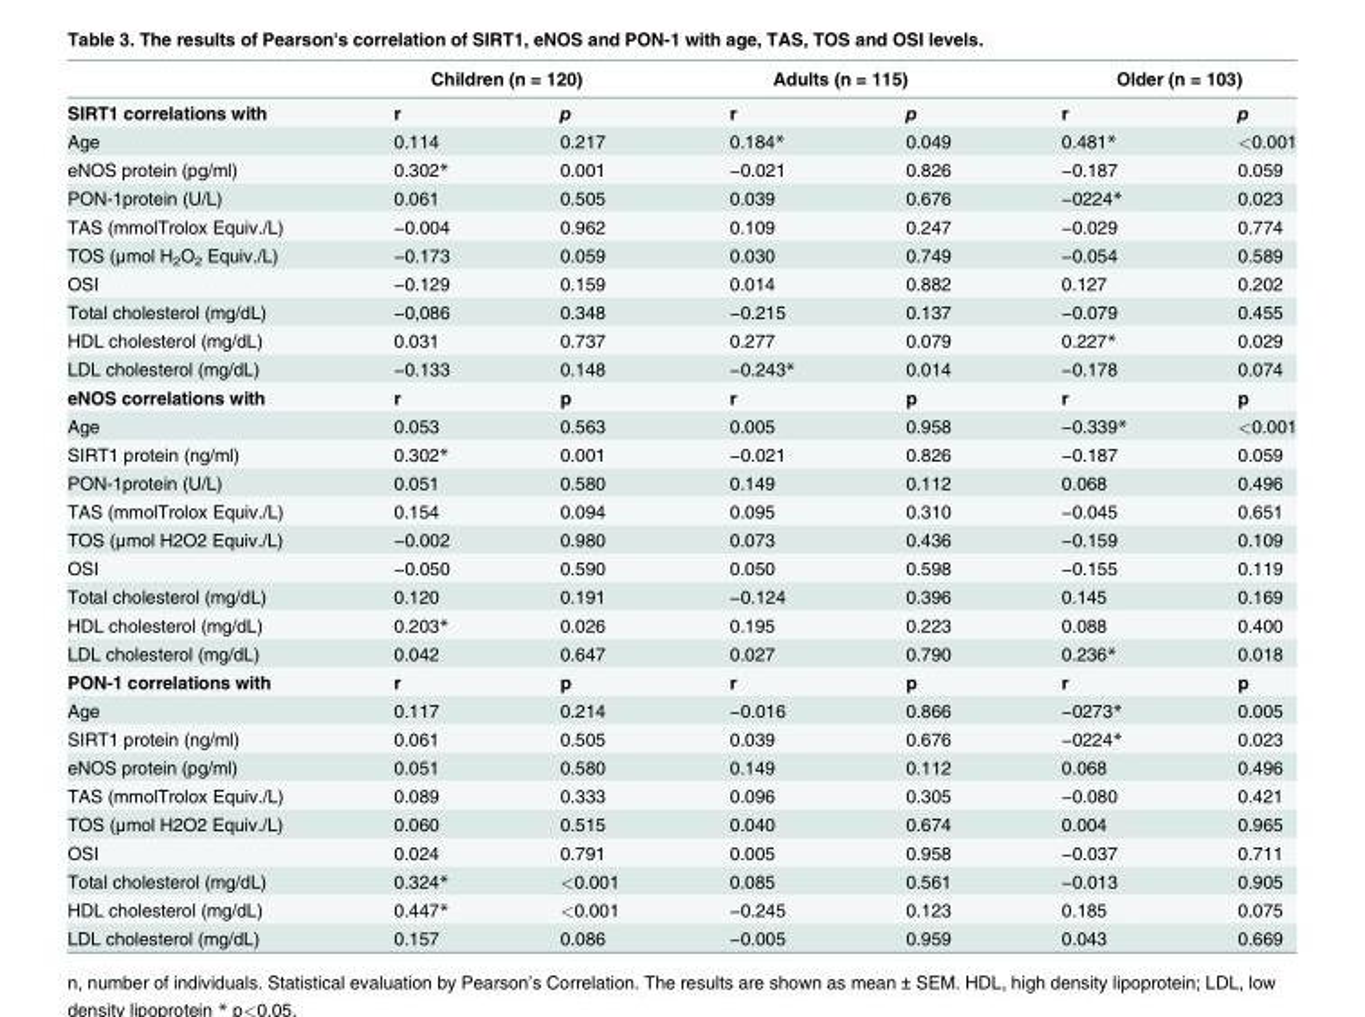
<table><thead><tr><td rowspan="2">SIRT1 correlations with</td><td colspan="2">Children (n = 120)</td><td colspan="2">Adults (n = 115)</td><td colspan="2">Older (n = 103)</td></tr><tr><td>r</td><td>p</td><td>r</td><td>p</td><td>r</td><td>p</td></tr></thead><tbody><tr><td>Age</td><td>0.114</td><td>0.217</td><td>0.184*</td><td>0.049</td><td>0.481*</td><td>&lt;0.001</td></tr><tr><td>eNOS protein (pg/ml)</td><td>0.302*</td><td>0.001</td><td>−0.021</td><td>0.826</td><td>−0.187</td><td>0.059</td></tr><tr><td>PON-1protein (U/L)</td><td>0.061</td><td>0.505</td><td>0.039</td><td>0.676</td><td>−0224*</td><td>0.023</td></tr><tr><td>TAS (mmolTrolox Equiv./L)</td><td>−0.004</td><td>0.962</td><td>0.109</td><td>0.247</td><td>−0.029</td><td>0.774</td></tr><tr><td>TOS (μmol H<sub>2</sub>O<sub>2</sub> Equiv./L)</td><td>−0.173</td><td>0.059</td><td>0.030</td><td>0.749</td><td>−0.054</td><td>0.589</td></tr><tr><td>OSI</td><td>−0.129</td><td>0.159</td><td>0.014</td><td>0.882</td><td>0.127</td><td>0.202</td></tr><tr><td>Total cholesterol (mg/dL)</td><td>−0,086</td><td>0.348</td><td>−0.215</td><td>0.137</td><td>−0.079</td><td>0.455</td></tr><tr><td>HDL cholesterol (mg/dL)</td><td>0.031</td><td>0.737</td><td>0.277</td><td>0.079</td><td>0.227*</td><td>0.029</td></tr><tr><td>LDL cholesterol (mg/dL)</td><td>−0.133</td><td>0.148</td><td>−0.243*</td><td>0.014</td><td>−0.178</td><td>0.074</td></tr><tr><td>eNOS correlations with</td><td>r</td><td>p</td><td>r</td><td>p</td><td>r</td><td>p</td></tr><tr><td>Age</td><td>0.053</td><td>0.563</td><td>0.005</td><td>0.958</td><td>−0.339*</td><td>&lt;0.001</td></tr><tr><td>SIRT1 protein (ng/ml)</td><td>0.302*</td><td>0.001</td><td>−0.021</td><td>0.826</td><td>−0.187</td><td>0.059</td></tr><tr><td>PON-1protein (U/L)</td><td>0.051</td><td>0.580</td><td>0.149</td><td>0.112</td><td>0.068</td><td>0.496</td></tr><tr><td>TAS (mmolTrolox Equiv./L)</td><td>0.154</td><td>0.094</td><td>0.095</td><td>0.310</td><td>−0.045</td><td>0.651</td></tr><tr><td>TOS (μmol H2O2 Equiv./L)</td><td>−0.002</td><td>0.980</td><td>0.073</td><td>0.436</td><td>−0.159</td><td>0.109</td></tr><tr><td>OSI</td><td>−0.050</td><td>0.590</td><td>0.050</td><td>0.598</td><td>−0.155</td><td>0.119</td></tr><tr><td>Total cholesterol (mg/dL)</td><td>0.120</td><td>0.191</td><td>−0.124</td><td>0.396</td><td>0.145</td><td>0.169</td></tr><tr><td>HDL cholesterol (mg/dL)</td><td>0.203*</td><td>0.026</td><td>0.195</td><td>0.223</td><td>0.088</td><td>0.400</td></tr><tr><td>LDL cholesterol (mg/dL)</td><td>0.042</td><td>0.647</td><td>0.027</td><td>0.790</td><td>0.236*</td><td>0.018</td></tr><tr><td>PON-1 correlations with</td><td>r</td><td>p</td><td>r</td><td>p</td><td>r</td><td>p</td></tr><tr><td>Age</td><td>0.117</td><td>0.214</td><td>−0.016</td><td>0.866</td><td>−0273*</td><td>0.005</td></tr><tr><td>SIRT1 protein (ng/ml)</td><td>0.061</td><td>0.505</td><td>0.039</td><td>0.676</td><td>−0224*</td><td>0.023</td></tr><tr><td>eNOS protein (pg/ml)</td><td>0.051</td><td>0.580</td><td>0.149</td><td>0.112</td><td>0.068</td><td>0.496</td></tr><tr><td>TAS (mmolTrolox Equiv./L)</td><td>0.089</td><td>0.333</td><td>0.096</td><td>0.305</td><td>−0.080</td><td>0.421</td></tr><tr><td>TOS (μmol H2O2 Equiv./L)</td><td>0.060</td><td>0.515</td><td>0.040</td><td>0.674</td><td>0.004</td><td>0.965</td></tr><tr><td>OSI</td><td>0.024</td><td>0.791</td><td>0.005</td><td>0.958</td><td>−0.037</td><td>0.711</td></tr><tr><td>Total cholesterol (mg/dL)</td><td>0.324*</td><td>&lt;0.001</td><td>0.085</td><td>0.561</td><td>−0.013</td><td>0.905</td></tr><tr><td>HDL cholesterol (mg/dL)</td><td>0.447*</td><td>&lt;0.001</td><td>−0.245</td><td>0.123</td><td>0.185</td><td>0.075</td></tr><tr><td>LDL cholesterol (mg/dL)</td><td>0.157</td><td>0.086</td><td>−0.005</td><td>0.959</td><td>0.043</td><td>0.669</td></tr></tbody></table>